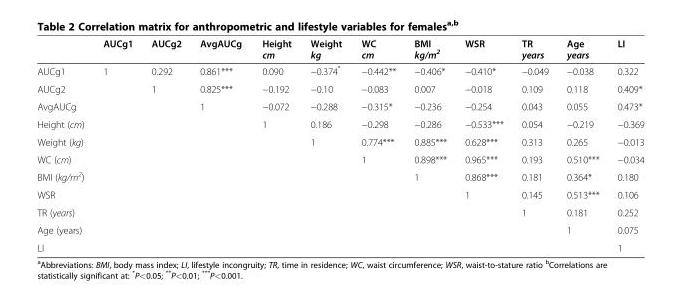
<table><thead><tr><td></td><td>AUCg1</td><td>AUCg2</td><td>AvgAUCg</td><td>Height cm</td><td>Weight kg</td><td>WC cm</td><td>BMI kg/m<sup>2</sup></td><td>WSR</td><td>TR years</td><td>Age years</td><td>LI</td></tr></thead><tbody><tr><td>AUCg1</td><td>1</td><td>0.292</td><td>0.861***</td><td>0.090</td><td>−0.374*</td><td>−0.442**</td><td>−0.406*</td><td>−0.410*</td><td>−0.049</td><td>−0.038</td><td>0.322</td></tr><tr><td>AUCg2</td><td></td><td>1</td><td>0.825***</td><td>−0.192</td><td>−0.10</td><td>−0.083</td><td>0.007</td><td>−0.018</td><td>0.109</td><td>0.118</td><td>0.409*</td></tr><tr><td>AvgAUCg</td><td></td><td></td><td>1</td><td>−0.072</td><td>−0.288</td><td>−0.315*</td><td>−0.236</td><td>−0.254</td><td>0.043</td><td>0.055</td><td>0.473*</td></tr><tr><td>Height (cm)</td><td></td><td></td><td></td><td>1</td><td>0.186</td><td>−0.298</td><td>−0.286</td><td>−0.533***</td><td>0.054</td><td>−0.219</td><td>−0.369</td></tr><tr><td>Weight (kg)</td><td></td><td></td><td></td><td></td><td>1</td><td>0.774***</td><td>0.885***</td><td>0.628***</td><td>0.313</td><td>0.265</td><td>−0.013</td></tr><tr><td>WC (cm)</td><td></td><td></td><td></td><td></td><td></td><td>1</td><td>0.898***</td><td>0.965***</td><td>0.193</td><td>0.510***</td><td>−0.034</td></tr><tr><td>BMI (kg/m<sup>2</sup>)</td><td></td><td></td><td></td><td></td><td></td><td></td><td>1</td><td>0.868***</td><td>0.181</td><td>0.364*</td><td>0.180</td></tr><tr><td>WSR</td><td></td><td></td><td></td><td></td><td></td><td></td><td></td><td>1</td><td>0.145</td><td>0.513***</td><td>0.106</td></tr><tr><td>TR (years)</td><td></td><td></td><td></td><td></td><td></td><td></td><td></td><td></td><td>1</td><td>0.181</td><td>0.252</td></tr><tr><td>Age (years)</td><td></td><td></td><td></td><td></td><td></td><td></td><td></td><td></td><td></td><td>1</td><td>0.075</td></tr><tr><td>LI</td><td></td><td></td><td></td><td></td><td></td><td></td><td></td><td></td><td></td><td></td><td>1</td></tr></tbody></table>